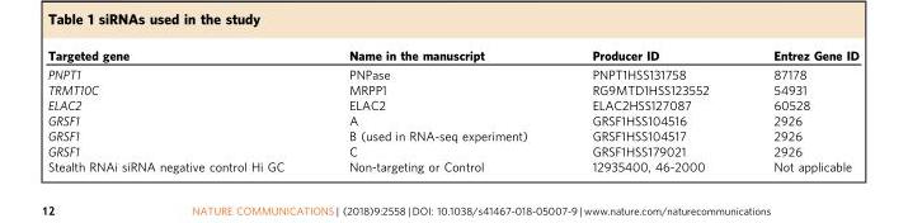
<table><thead><tr><td>Targeted gene</td><td>Name in the manuscript</td><td>Producer ID</td><td>Entrez Gene ID</td></tr></thead><tbody><tr><td>PNPT1</td><td>PNPase</td><td>PNPT1HSS131758</td><td>87178</td></tr><tr><td>TRMT10C</td><td>MRPP1</td><td>RG9MTD1HSS123552</td><td>54931</td></tr><tr><td>ELAC2</td><td>ELAC2</td><td>ELAC2HSS127087</td><td>60528</td></tr><tr><td>GRSF1</td><td>A</td><td>GRSF1HSS104516</td><td>2926</td></tr><tr><td>GRSF1</td><td>B (used in RNA-seq experiment)</td><td>GRSF1HSS104517</td><td>2926</td></tr><tr><td>GRSF1</td><td>C</td><td>GRSF1HSS179021</td><td>2926</td></tr><tr><td>Stealth RNAi siRNA negative control Hi GC</td><td>Non-targeting or Control</td><td>12935400, 46-2000</td><td>Not applicable</td></tr></tbody></table>